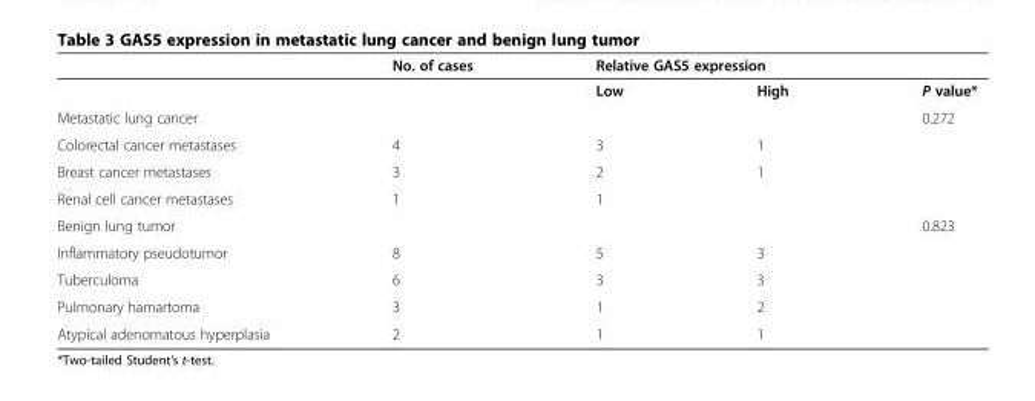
<table><thead><tr><td rowspan="2"></td><td rowspan="2">No. of cases</td><td colspan="3">Relative GAS5 expression</td></tr><tr><td>Low</td><td>High</td><td>P value*</td></tr></thead><tbody><tr><td>Metastatic lung cancer</td><td></td><td></td><td></td><td>0.272</td></tr><tr><td>Colorectal cancer metastases</td><td>4</td><td>3</td><td>1</td><td></td></tr><tr><td>Breast cancer metastases</td><td>3</td><td>2</td><td>1</td><td></td></tr><tr><td>Renal cell cancer metastases</td><td>1</td><td>1</td><td></td><td></td></tr><tr><td>Benign lung tumor</td><td></td><td></td><td></td><td>0.823</td></tr><tr><td>Inflammatory pseudotumor</td><td>8</td><td>5</td><td>3</td><td></td></tr><tr><td>Tuberculoma</td><td>6</td><td>3</td><td>3</td><td></td></tr><tr><td>Pulmonary hamartoma</td><td>3</td><td>1</td><td>2</td><td></td></tr><tr><td>Atypical adenomatous hyperplasia</td><td>2</td><td>1</td><td>1</td><td></td></tr></tbody></table>